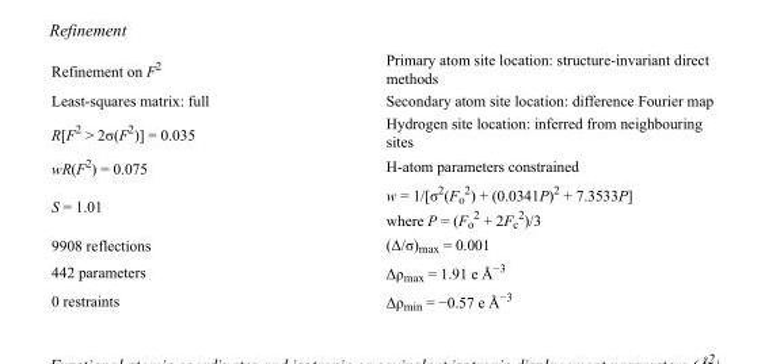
<table><tbody><tr><td>Refinement on F<sup>2</sup></td><td>Primary atom site location: structure-invariant direct methods</td></tr><tr><td>Least-squares matrix: full</td><td>Secondary atom site location: difference Fourier map</td></tr><tr><td>R[F<sup>2</sup> &gt; 2σ(F<sup>2</sup>)] = 0.035</td><td>Hydrogen site location: inferred from neighbouring sites</td></tr><tr><td>wR(F<sup>2</sup>) = 0.075</td><td>H-atom parameters constrained</td></tr><tr><td>S = 1.01</td><td>w = 1/[σ<sup>2</sup>(F<sub>o</sub> <sup>2</sup>) + (0.0341P)<sup>2</sup> + 7.3533P] where P = (F<sub>o</sub> <sup>2</sup> + 2F<sub>c</sub> <sup>2</sup>)/3</td></tr><tr><td>9908 reflections</td><td>(Δ/σ)<sub>max</sub> = 0.001</td></tr><tr><td>442 parameters</td><td>Δρ<sub>max</sub> = 1.91 e Å<sup>−3</sup></td></tr><tr><td>0 restraints</td><td>Δρ<sub>min</sub> = −0.57 e Å<sup>−3</sup></td></tr></tbody></table>